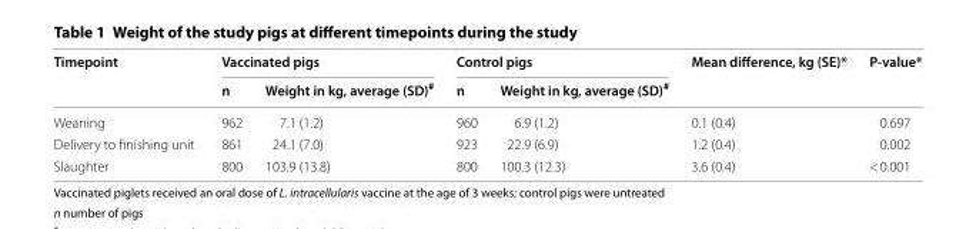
<table><thead><tr><td rowspan="2">Timepoint</td><td colspan="2">Vaccinated pigs</td><td colspan="2">Control pigs</td><td rowspan="2">Mean difference, kg (SE)*</td><td rowspan="2">P-value*</td></tr><tr><td>n</td><td>Weight in kg, average (SD)<sup>#</sup></td><td>n</td><td>Weight in kg, average (SD)<sup>#</sup></td></tr></thead><tbody><tr><td>Weaning</td><td>962</td><td>7.1 (1.2)</td><td>960</td><td>6.9 (1.2)</td><td>0.1 (0.4)</td><td>0.697</td></tr><tr><td>Delivery to finishing unit</td><td>861</td><td>24.1 (7.0)</td><td>923</td><td>22.9 (6.9)</td><td>1.2 (0.4)</td><td>0.002</td></tr><tr><td>Slaughter</td><td>800</td><td>103.9 (13.8)</td><td>800</td><td>100.3 (12.3)</td><td>3.6 (0.4)</td><td>&lt; 0.001</td></tr></tbody></table>